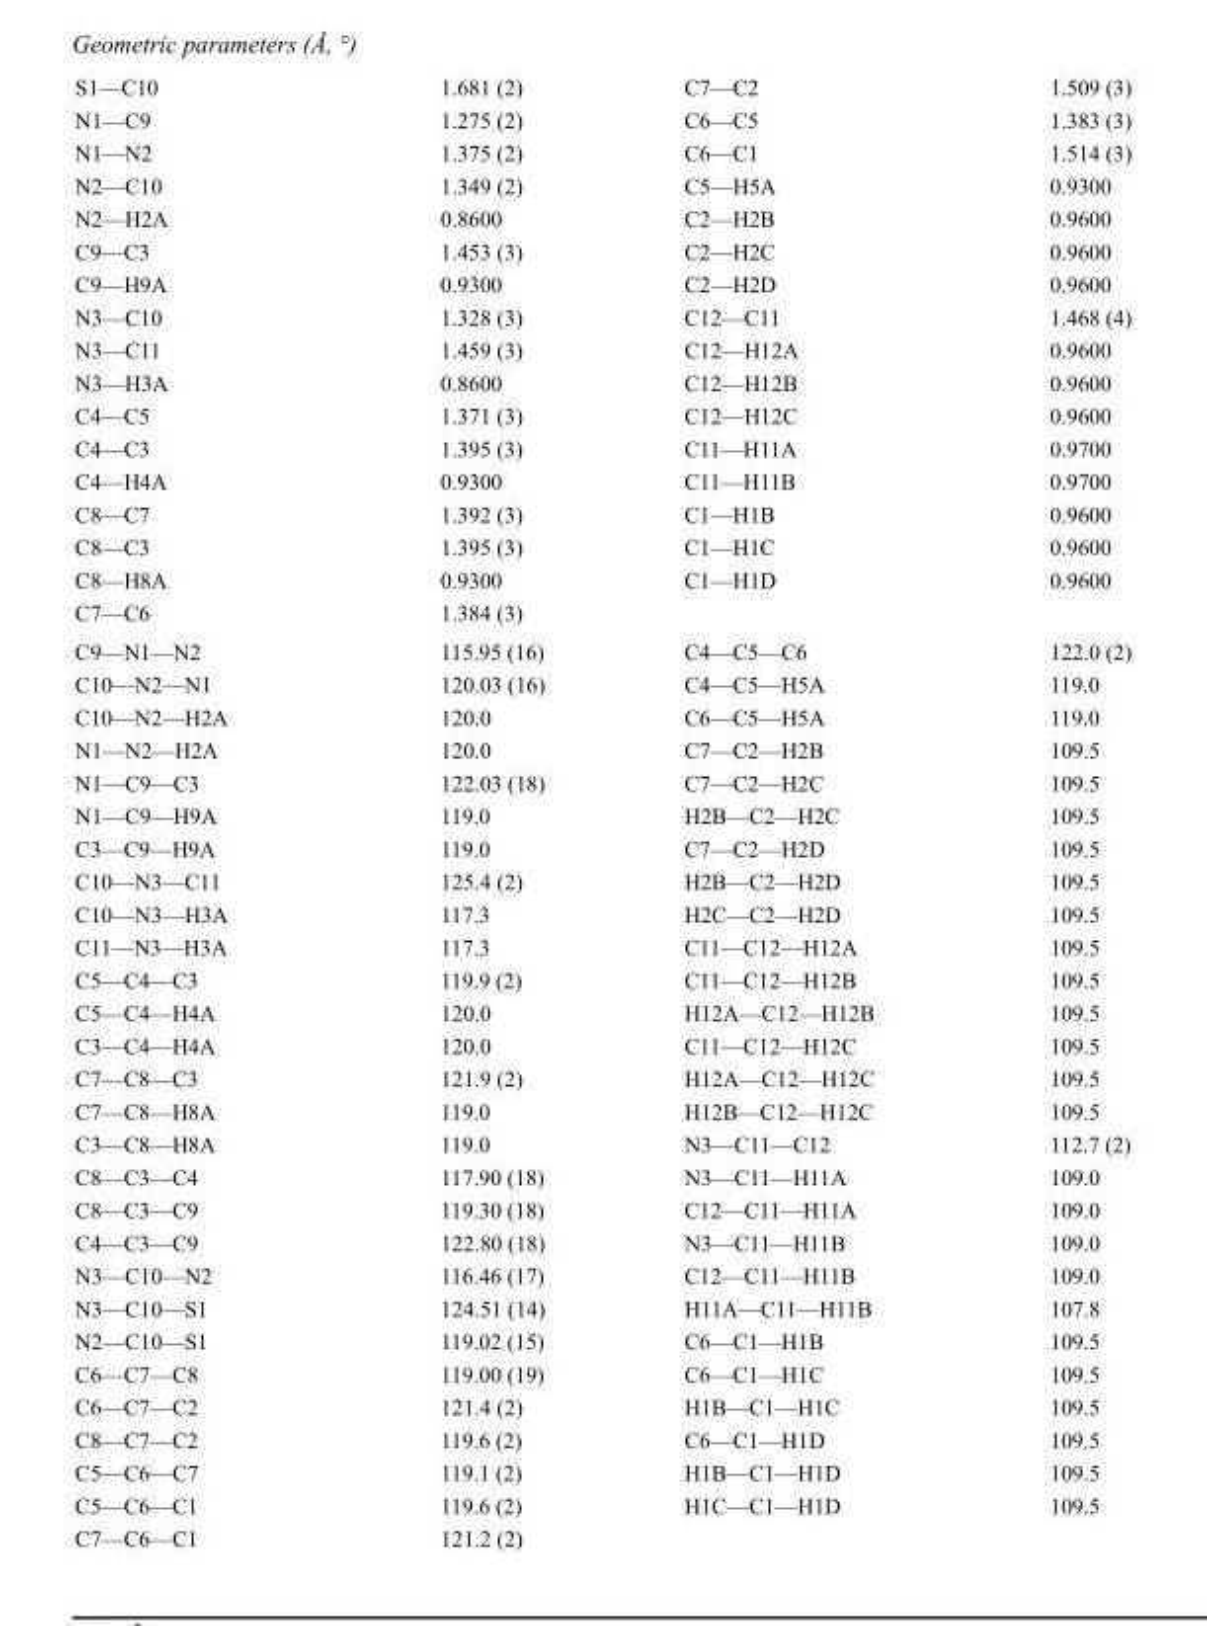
<table><tbody><tr><td>S1—C10</td><td>1.681 (2)</td><td>C7—C2</td><td>1.509 (3)</td></tr><tr><td>N1—C9</td><td>1.275 (2)</td><td>C6—C5</td><td>1.383 (3)</td></tr><tr><td>N1—N2</td><td>1.375 (2)</td><td>C6—C1</td><td>1.514 (3)</td></tr><tr><td>N2—C10</td><td>1.349 (2)</td><td>C5—H5A</td><td>0.9300</td></tr><tr><td>N2—H2A</td><td>0.8600</td><td>C2—H2B</td><td>0.9600</td></tr><tr><td>C9—C3</td><td>1.453 (3)</td><td>C2—H2C</td><td>0.9600</td></tr><tr><td>C9—H9A</td><td>0.9300</td><td>C2—H2D</td><td>0.9600</td></tr><tr><td>N3—C10</td><td>1.328 (3)</td><td>C12—C11</td><td>1.468 (4)</td></tr><tr><td>N3—C11</td><td>1.459 (3)</td><td>C12—H12A</td><td>0.9600</td></tr><tr><td>N3—H3A</td><td>0.8600</td><td>C12—H12B</td><td>0.9600</td></tr><tr><td>C4—C5</td><td>1.371 (3)</td><td>C12—H12C</td><td>0.9600</td></tr><tr><td>C4—C3</td><td>1.395 (3)</td><td>C11—H11A</td><td>0.9700</td></tr><tr><td>C4—H4A</td><td>0.9300</td><td>C11—H11B</td><td>0.9700</td></tr><tr><td>C8—C7</td><td>1.392 (3)</td><td>C1—H1B</td><td>0.9600</td></tr><tr><td>C8—C3</td><td>1.395 (3)</td><td>C1—H1C</td><td>0.9600</td></tr><tr><td>C8—H8A</td><td>0.9300</td><td>C1—H1D</td><td>0.9600</td></tr><tr><td>C7—C6</td><td>1.384 (3)</td><td></td><td></td></tr><tr><td>C9—N1—N2</td><td>115.95 (16)</td><td>C4—C5—C6</td><td>122.0 (2)</td></tr><tr><td>C10—N2—N1</td><td>120.03 (16)</td><td>C4—C5—H5A</td><td>119.0</td></tr><tr><td>C10—N2—H2A</td><td>120.0</td><td>C6—C5—H5A</td><td>119.0</td></tr><tr><td>N1—N2—H2A</td><td>120.0</td><td>C7—C2—H2B</td><td>109.5</td></tr><tr><td>N1—C9—C3</td><td>122.03 (18)</td><td>C7—C2—H2C</td><td>109.5</td></tr><tr><td>N1—C9—H9A</td><td>119.0</td><td>H2B—C2—H2C</td><td>109.5</td></tr><tr><td>C3—C9—H9A</td><td>119.0</td><td>C7—C2—H2D</td><td>109.5</td></tr><tr><td>C10—N3—C11</td><td>125.4 (2)</td><td>H2B—C2—H2D</td><td>109.5</td></tr><tr><td>C10—N3—H3A</td><td>117.3</td><td>H2C—C2—H2D</td><td>109.5</td></tr><tr><td>C11—N3—H3A</td><td>117.3</td><td>C11—C12—H12A</td><td>109.5</td></tr><tr><td>C5—C4—C3</td><td>119.9 (2)</td><td>C11—C12—H12B</td><td>109.5</td></tr><tr><td>C5—C4—H4A</td><td>120.0</td><td>H12A—C12—H12B</td><td>109.5</td></tr><tr><td>C3—C4—H4A</td><td>120.0</td><td>C11—C12—H12C</td><td>109.5</td></tr><tr><td>C7—C8—C3</td><td>121.9 (2)</td><td>H12A—C12—H12C</td><td>109.5</td></tr><tr><td>C7—C8—H8A</td><td>119.0</td><td>H12B—C12—H12C</td><td>109.5</td></tr><tr><td>C3—C8—H8A</td><td>119.0</td><td>N3—C11—C12</td><td>112.7 (2)</td></tr><tr><td>C8—C3—C4</td><td>117.90 (18)</td><td>N3—C11—H11A</td><td>109.0</td></tr><tr><td>C8—C3—C9</td><td>119.30 (18)</td><td>C12—C11—H11A</td><td>109.0</td></tr><tr><td>C4—C3—C9</td><td>122.80 (18)</td><td>N3—C11—H11B</td><td>109.0</td></tr><tr><td>N3—C10—N2</td><td>116.46 (17)</td><td>C12—C11—H11B</td><td>109.0</td></tr><tr><td>N3—C10—S1</td><td>124.51 (14)</td><td>H11A—C11—H11B</td><td>107.8</td></tr><tr><td>N2—C10—S1</td><td>119.02 (15)</td><td>C6—C1—H1B</td><td>109.5</td></tr><tr><td>C6—C7—C8</td><td>119.00 (19)</td><td>C6—C1—H1C</td><td>109.5</td></tr><tr><td>C6—C7—C2</td><td>121.4 (2)</td><td>H1B—C1—H1C</td><td>109.5</td></tr><tr><td>C8—C7—C2</td><td>119.6 (2)</td><td>C6—C1—H1D</td><td>109.5</td></tr><tr><td>C5—C6—C7</td><td>119.1 (2)</td><td>H1B—C1—H1D</td><td>109.5</td></tr><tr><td>C5—C6—C1</td><td>119.6 (2)</td><td>H1C—C1—H1D</td><td>109.5</td></tr><tr><td>C7—C6—C1</td><td>121.2 (2)</td><td></td><td></td></tr></tbody></table>